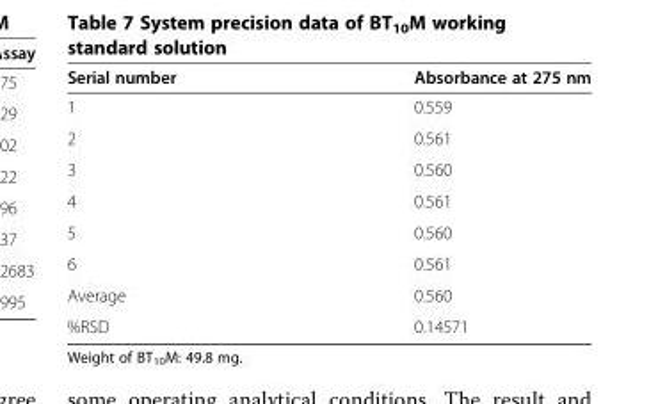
<table><thead><tr><td>Serial number</td><td>Absorbance at 275 nm</td></tr></thead><tbody><tr><td>1</td><td>0.559</td></tr><tr><td>2</td><td>0.561</td></tr><tr><td>3</td><td>0.560</td></tr><tr><td>4</td><td>0.561</td></tr><tr><td>5</td><td>0.560</td></tr><tr><td>6</td><td>0.561</td></tr><tr><td>Average</td><td>0.560</td></tr><tr><td>%RSD</td><td>0.14571</td></tr></tbody></table>